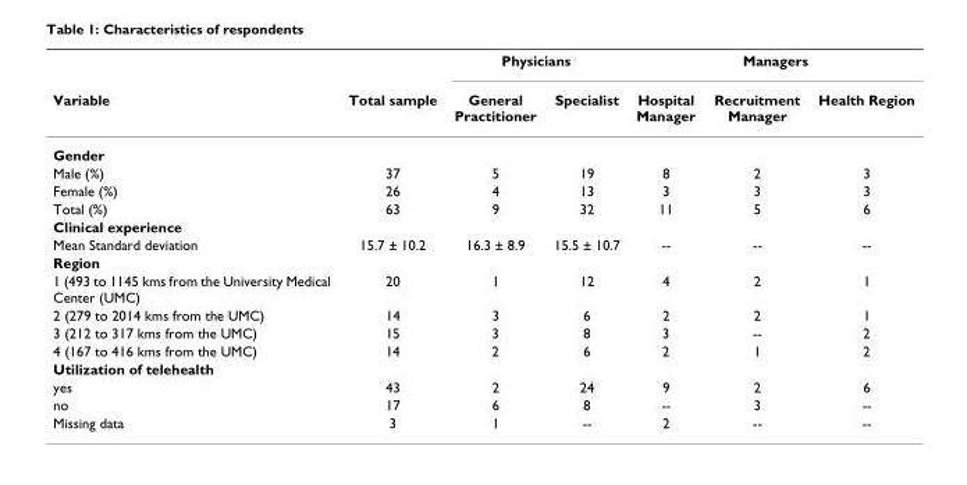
<table><thead><tr><td rowspan="2">Variable</td><td rowspan="2">Total sample</td><td colspan="2">Physicians</td><td colspan="3">Managers</td></tr><tr><td>General Practitioner</td><td>Specialist</td><td>Hospital Manager</td><td>Recruitment Manager</td><td>Health Region</td></tr></thead><tbody><tr><td colspan="7">Gender</td></tr><tr><td>Male (%)</td><td>37</td><td>5</td><td>19</td><td>8</td><td>2</td><td>3</td></tr><tr><td>Female (%)</td><td>26</td><td>4</td><td>13</td><td>3</td><td>3</td><td>3</td></tr><tr><td>Total (%)</td><td>63</td><td>9</td><td>32</td><td>11</td><td>5</td><td>6</td></tr><tr><td colspan="7">Clinical experience</td></tr><tr><td>Mean Standard deviation</td><td>15.7 ± 10.2</td><td>16.3 ± 8.9</td><td>15.5 ± 10.7</td><td>--</td><td>--</td><td>--</td></tr><tr><td colspan="7">Region</td></tr><tr><td>1 (493 to 1145 kms from the University Medical Center (UMC)</td><td>20</td><td>1</td><td>12</td><td>4</td><td>2</td><td>1</td></tr><tr><td>2 (279 to 2014 kms from the UMC)</td><td>14</td><td>3</td><td>6</td><td>2</td><td>2</td><td>1</td></tr><tr><td>3 (212 to 317 kms from the UMC)</td><td>15</td><td>3</td><td>8</td><td>3</td><td>--</td><td>2</td></tr><tr><td>4 (167 to 416 kms from the UMC)</td><td>14</td><td>2</td><td>6</td><td>2</td><td>1</td><td>2</td></tr><tr><td colspan="7">Utilization of telehealth</td></tr><tr><td>yes</td><td>43</td><td>2</td><td>24</td><td>9</td><td>2</td><td>6</td></tr><tr><td>no</td><td>17</td><td>6</td><td>8</td><td>--</td><td>3</td><td>--</td></tr><tr><td>Missing data</td><td>3</td><td>1</td><td>--</td><td>2</td><td>--</td><td>--</td></tr></tbody></table>